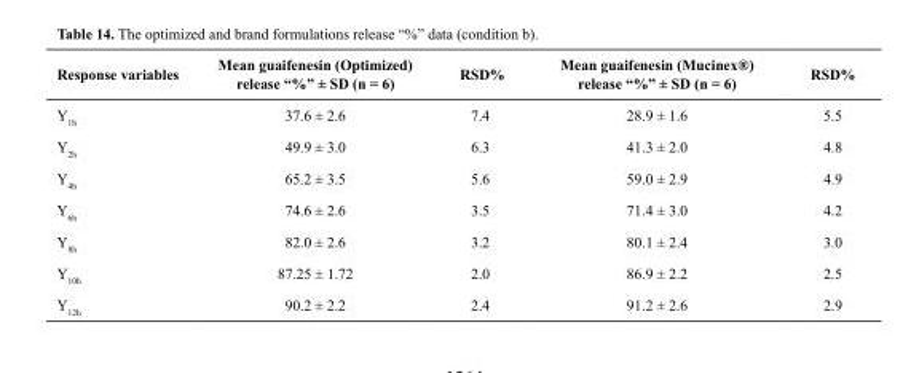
<table><thead><tr><td>Response variables</td><td>Mean guaifenesin (Optimized) release “%” ± SD (n = 6)</td><td>RSD%</td><td>Mean guaifenesin (Mucinex<sup>®</sup>) release “%” ± SD (n = 6)</td><td>RSD%</td></tr></thead><tbody><tr><td>Y<sub>1h</sub></td><td>37.6 ± 2.6</td><td>7.4</td><td>28.9 ± 1.6</td><td>5.5</td></tr><tr><td>Y<sub>2h</sub></td><td>49.9 ± 3.0</td><td>6.3</td><td>41.3 ± 2.0</td><td>4.8</td></tr><tr><td>Y<sub>4h</sub></td><td>65.2 ± 3.5</td><td>5.6</td><td>59.0 ± 2.9</td><td>4.9</td></tr><tr><td>Y<sub>6h</sub></td><td>74.6 ± 2.6</td><td>3.5</td><td>71.4 ± 3.0</td><td>4.2</td></tr><tr><td>Y<sub>8h</sub></td><td>82.0 ± 2.6</td><td>3.2</td><td>80.1 ± 2.4</td><td>3.0</td></tr><tr><td>Y<sub>10h</sub></td><td>87.25 ± 1.72</td><td>2.0</td><td>86.9 ± 2.2</td><td>2.5</td></tr><tr><td>Y<sub>12h</sub></td><td>90.2 ± 2.2</td><td>2.4</td><td>91.2 ± 2.6</td><td>2.9</td></tr></tbody></table>